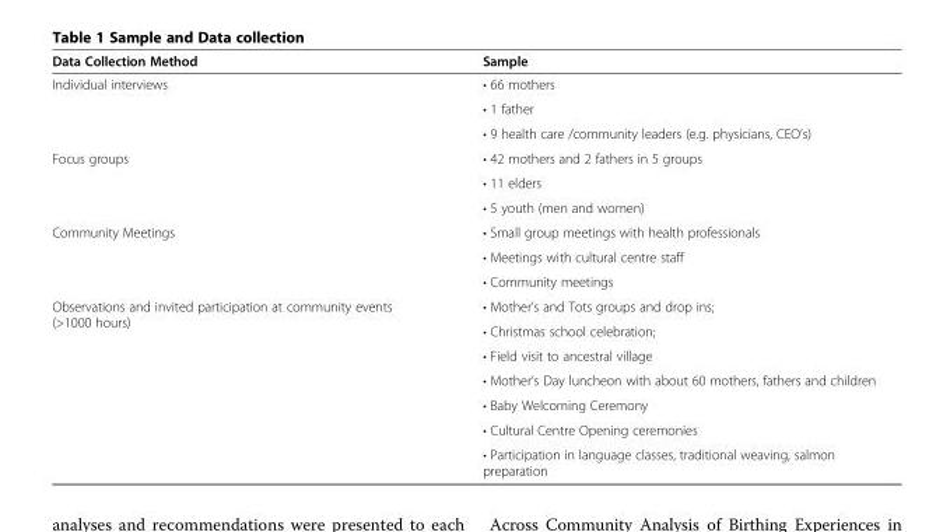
<table><thead><tr><td>Data Collection Method</td><td>Sample</td></tr></thead><tbody><tr><td rowspan="3">Individual interviews</td><td>• 66 mothers</td></tr><tr><td>• 1 father</td></tr><tr><td>• 9 health care /community leaders (e.g. physicians, CEO’s)</td></tr><tr><td rowspan="3">Focus groups</td><td>• 42 mothers and 2 fathers in 5 groups</td></tr><tr><td>• 11 elders</td></tr><tr><td>• 5 youth (men and women)</td></tr><tr><td rowspan="3">Community Meetings</td><td>• Small group meetings with health professionals</td></tr><tr><td>• Meetings with cultural centre staff</td></tr><tr><td>• Community meetings</td></tr><tr><td rowspan="7">Observations and invited participation at community events (&gt;1000 hours)</td><td>• Mother’s and Tots groups and drop ins;</td></tr><tr><td>• Christmas school celebration;</td></tr><tr><td>• Field visit to ancestral village</td></tr><tr><td>• Mother’s Day luncheon with about 60 mothers, fathers and children</td></tr><tr><td>• Baby Welcoming Ceremony</td></tr><tr><td>• Cultural Centre Opening ceremonies</td></tr><tr><td>• Participation in language classes, traditional weaving, salmon preparation</td></tr></tbody></table>